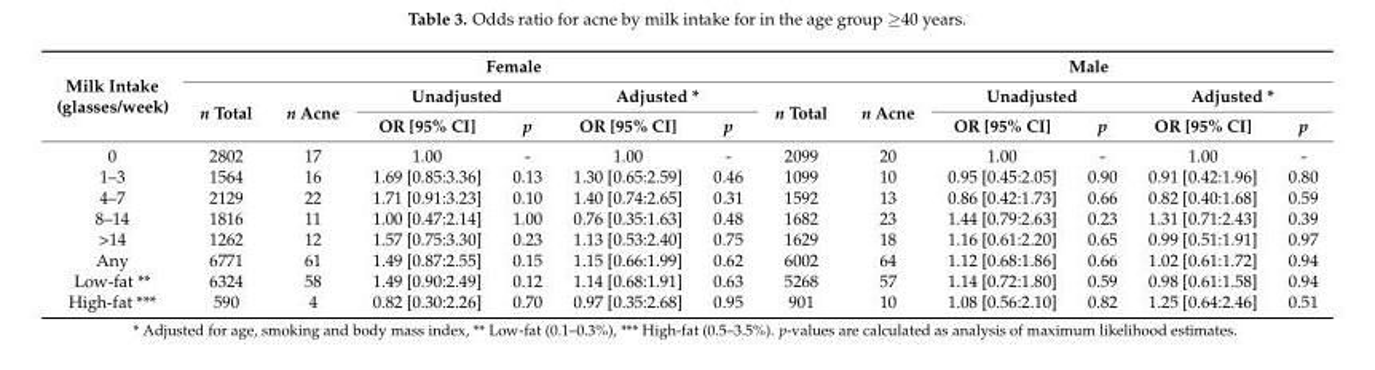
<table><thead><tr><td rowspan="3">Milk Intake (glasses/week)</td><td colspan="7">Female</td><td colspan="5">Male</td></tr><tr><td rowspan="2">n Total</td><td rowspan="2">n Acne</td><td colspan="2">Unadjusted</td><td colspan="2">Adjusted *</td><td rowspan="2">n Total</td><td rowspan="2">n Acne</td><td colspan="2">Unadjusted</td><td colspan="2">Adjusted *</td></tr><tr><td>OR [95% CI]</td><td>p</td><td>OR [95% CI]</td><td>p</td><td>OR [95% CI]</td><td>p</td><td>OR [95% CI]</td><td>p</td></tr></thead><tbody><tr><td>0</td><td>2802</td><td>17</td><td>1.00</td><td>-</td><td>1.00</td><td>-</td><td>2099</td><td>20</td><td>1.00</td><td>-</td><td>1.00</td><td>-</td></tr><tr><td>1–3</td><td>1564</td><td>16</td><td>1.69 [0.85:3.36]</td><td>0.13</td><td>1.30 [0.65:2.59]</td><td>0.46</td><td>1099</td><td>10</td><td>0.95 [0.45:2.05]</td><td>0.90</td><td>0.91 [0.42:1.96]</td><td>0.80</td></tr><tr><td>4–7</td><td>2129</td><td>22</td><td>1.71 [0.91:3.23]</td><td>0.10</td><td>1.40 [0.74:2.65]</td><td>0.31</td><td>1592</td><td>13</td><td>0.86 [0.42:1.73]</td><td>0.66</td><td>0.82 [0.40:1.68]</td><td>0.59</td></tr><tr><td>8–14</td><td>1816</td><td>11</td><td>1.00 [0.47:2.14]</td><td>1.00</td><td>0.76 [0.35:1.63]</td><td>0.48</td><td>1682</td><td>23</td><td>1.44 [0.79:2.63]</td><td>0.23</td><td>1.31 [0.71:2.43]</td><td>0.39</td></tr><tr><td>&gt;14</td><td>1262</td><td>12</td><td>1.57 [0.75:3.30]</td><td>0.23</td><td>1.13 [0.53:2.40]</td><td>0.75</td><td>1629</td><td>18</td><td>1.16 [0.61:2.20]</td><td>0.65</td><td>0.99 [0.51:1.91]</td><td>0.97</td></tr><tr><td>Any</td><td>6771</td><td>61</td><td>1.49 [0.87:2.55]</td><td>0.15</td><td>1.15 [0.66:1.99]</td><td>0.62</td><td>6002</td><td>64</td><td>1.12 [0.68:1.86]</td><td>0.66</td><td>1.02 [0.61:1.72]</td><td>0.94</td></tr><tr><td>Low-fat **</td><td>6324</td><td>58</td><td>1.49 [0.90:2.49]</td><td>0.12</td><td>1.14 [0.68:1.91]</td><td>0.63</td><td>5268</td><td>57</td><td>1.14 [0.72:1.80]</td><td>0.59</td><td>0.98 [0.61:1.58]</td><td>0.94</td></tr><tr><td>High-fat ***</td><td>590</td><td>4</td><td>0.82 [0.30:2.26]</td><td>0.70</td><td>0.97 [0.35:2.68]</td><td>0.95</td><td>901</td><td>10</td><td>1.08 [0.56:2.10]</td><td>0.82</td><td>1.25 [0.64:2.46]</td><td>0.51</td></tr></tbody></table>